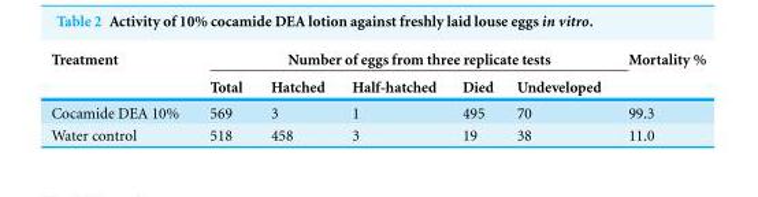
<table><thead><tr><td rowspan="2">Treatment</td><td colspan="5">Number of eggs from three replicate tests</td><td rowspan="2">Mortality %</td></tr><tr><td>Total</td><td>Hatched</td><td>Half-hatched</td><td>Died</td><td>Undeveloped</td></tr></thead><tbody><tr><td>Cocamide DEA 10%</td><td>569</td><td>3</td><td>1</td><td>495</td><td>70</td><td>99.3</td></tr><tr><td>Water control</td><td>518</td><td>458</td><td>3</td><td>19</td><td>38</td><td>11.0</td></tr></tbody></table>